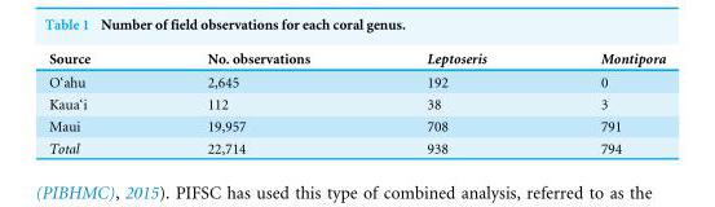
<table><thead><tr><td>Source</td><td>No. observations</td><td>Leptoseris</td><td>Montipora</td></tr></thead><tbody><tr><td>O‘ahu</td><td>2,645</td><td>192</td><td>0</td></tr><tr><td>Kaua‘i</td><td>112</td><td>38</td><td>3</td></tr><tr><td>Maui</td><td>19,957</td><td>708</td><td>791</td></tr><tr><td>Total</td><td>22,714</td><td>938</td><td>794</td></tr></tbody></table>